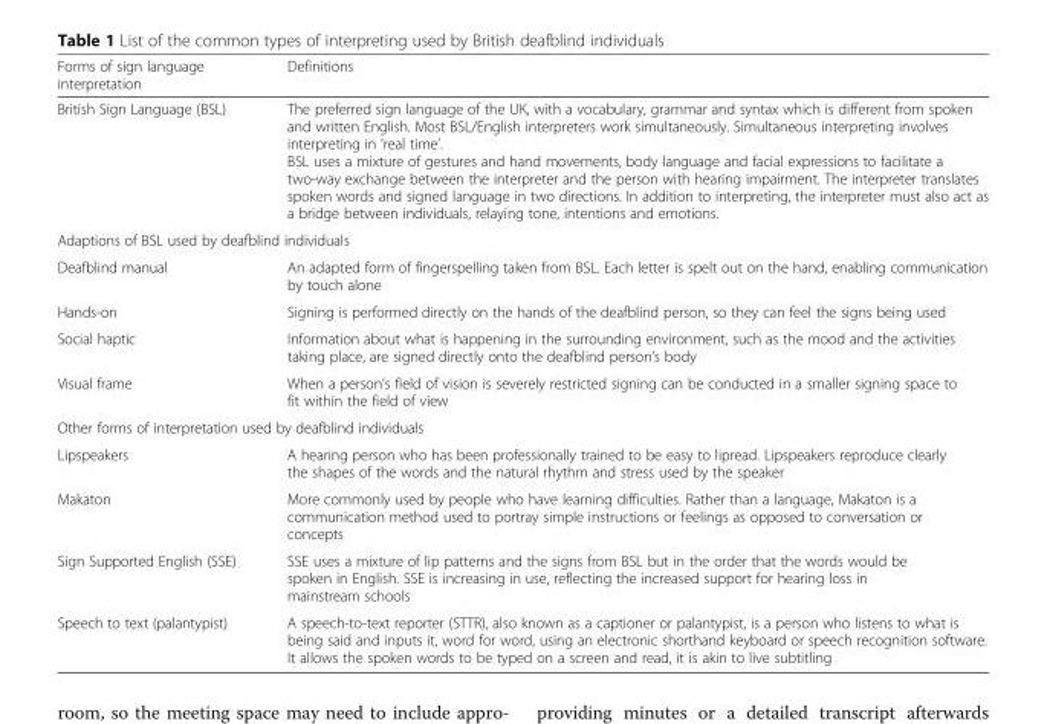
<table><thead><tr><td>Forms of sign language interpretation</td><td>Definitions</td></tr></thead><tbody><tr><td>British Sign Language (BSL)</td><td>The preferred sign language of the UK, with a vocabulary, grammar and syntax which is different from spoken and written English. Most BSL/English interpreters work simultaneously. Simultaneous interpreting involves interpreting in ‘real time’. BSL uses a mixture of gestures and hand movements, body language and facial expressions to facilitate a two-way exchange between the interpreter and the person with hearing impairment. The interpreter translates spoken words and signed language in two directions. In addition to interpreting, the interpreter must also act as a bridge between individuals, relaying tone, intentions and emotions.</td></tr><tr><td colspan="2">Adaptions of BSL used by deafblind individuals</td></tr><tr><td>Deafblind manual</td><td>An adapted form of fingerspelling taken from BSL. Each letter is spelt out on the hand, enabling communication by touch alone</td></tr><tr><td>Hands-on</td><td>Signing is performed directly on the hands of the deafblind person, so they can feel the signs being used</td></tr><tr><td>Social haptic</td><td>Information about what is happening in the surrounding environment, such as the mood and the activities taking place, are signed directly onto the deafblind person’s body</td></tr><tr><td>Visual frame</td><td>When a person’s field of vision is severely restricted signing can be conducted in a smaller signing space to fit within the field of view</td></tr><tr><td colspan="2">Other forms of interpretation used by deafblind individuals</td></tr><tr><td>Lipspeakers</td><td>A hearing person who has been professionally trained to be easy to lipread. Lipspeakers reproduce clearly the shapes of the words and the natural rhythm and stress used by the speaker</td></tr><tr><td>Makaton</td><td>More commonly used by people who have learning difficulties. Rather than a language, Makaton is a communication method used to portray simple instructions or feelings as opposed to conversation or concepts</td></tr><tr><td>Sign Supported English (SSE)</td><td>SSE uses a mixture of lip patterns and the signs from BSL but in the order that the words would be spoken in English. SSE is increasing in use, reflecting the increased support for hearing loss in mainstream schools</td></tr><tr><td>Speech to text (palantypist)</td><td>A speech-to-text reporter (STTR), also known as a captioner or palantypist, is a person who listens to what is being said and inputs it, word for word, using an electronic shorthand keyboard or speech recognition software. It allows the spoken words to be typed on a screen and read, it is akin to live subtitling</td></tr></tbody></table>